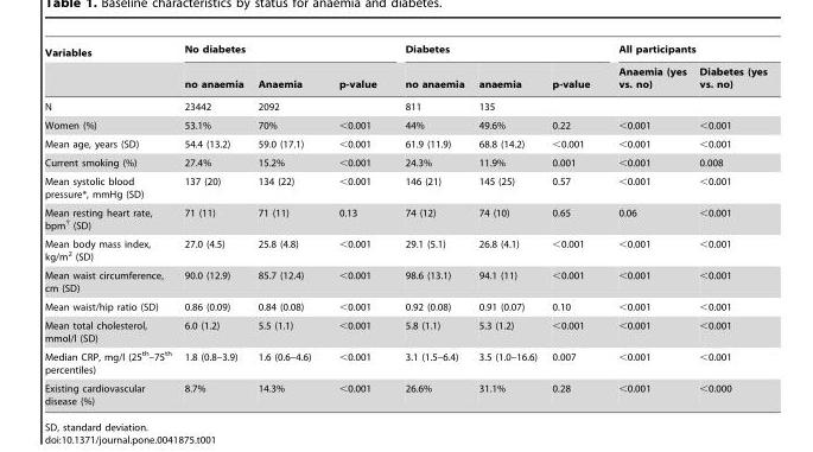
<table><thead><tr><td rowspan="2">Variables</td><td colspan="3">No diabetes</td><td colspan="3">Diabetes</td><td colspan="2">All participants</td></tr><tr><td>no anaemia</td><td>Anaemia</td><td>p-value</td><td>no anaemia</td><td>anaemia</td><td>p-value</td><td>Anaemia (yes vs. no)</td><td>Diabetes (yes vs. no)</td></tr></thead><tbody><tr><td>N</td><td>23442</td><td>2092</td><td></td><td>811</td><td>135</td><td></td><td></td><td></td></tr><tr><td>Women (%)</td><td>53.1%</td><td>70%</td><td>&lt;0.001</td><td>44%</td><td>49.6%</td><td>0.22</td><td>&lt;0.001</td><td>&lt;0.001</td></tr><tr><td>Mean age, years (SD)</td><td>54.4 (13.2)</td><td>59.0 (17.1)</td><td>&lt;0.001</td><td>61.9 (11.9)</td><td>68.8 (14.2)</td><td>&lt;0.001</td><td>&lt;0.001</td><td>&lt;0.001</td></tr><tr><td>Current smoking (%)</td><td>27.4%</td><td>15.2%</td><td>&lt;0.001</td><td>24.3%</td><td>11.9%</td><td>0.001</td><td>&lt;0.001</td><td>0.008</td></tr><tr><td>Mean systolic blood pressure*, mmHg (SD)</td><td>137 (20)</td><td>134 (22)</td><td>&lt;0.001</td><td>146 (21)</td><td>145 (25)</td><td>0.57</td><td>&lt;0.001</td><td>&lt;0.001</td></tr><tr><td>Mean resting heart rate, bpm<sup>†</sup> (SD)</td><td>71 (11)</td><td>71 (11)</td><td>0.13</td><td>74 (12)</td><td>74 (10)</td><td>0.65</td><td>0.06</td><td>&lt;0.001</td></tr><tr><td>Mean body mass index, kg/m<sup>2</sup> (SD)</td><td>27.0 (4.5)</td><td>25.8 (4.8)</td><td>&lt;0.001</td><td>29.1 (5.1)</td><td>26.8 (4.1)</td><td>&lt;0.001</td><td>&lt;0.001</td><td>&lt;0.001</td></tr><tr><td>Mean waist circumference, cm (SD)</td><td>90.0 (12.9)</td><td>85.7 (12.4)</td><td>&lt;0.001</td><td>98.6 (13.1)</td><td>94.1 (11)</td><td>&lt;0.001</td><td>&lt;0.001</td><td>&lt;0.001</td></tr><tr><td>Mean waist/hip ratio (SD)</td><td>0.86 (0.09)</td><td>0.84 (0.08)</td><td>&lt;0.001</td><td>0.92 (0.08)</td><td>0.91 (0.07)</td><td>0.10</td><td>&lt;0.001</td><td>&lt;0.001</td></tr><tr><td>Mean total cholesterol, mmol/l (SD)</td><td>6.0 (1.2)</td><td>5.5 (1.1)</td><td>&lt;0.001</td><td>5.8 (1.1)</td><td>5.3 (1.2)</td><td>&lt;0.001</td><td>&lt;0.001</td><td>&lt;0.001</td></tr><tr><td>Median CRP, mg/l (25<sup>th</sup>–75<sup>th</sup> percentiles)</td><td>1.8 (0.8–3.9)</td><td>1.6 (0.6–4.6)</td><td>&lt;0.001</td><td>3.1 (1.5–6.4)</td><td>3.5 (1.0–16.6)</td><td>0.007</td><td>&lt;0.001</td><td>&lt;0.001</td></tr><tr><td>Existing cardiovascular disease (%)</td><td>8.7%</td><td>14.3%</td><td>&lt;0.001</td><td>26.6%</td><td>31.1%</td><td>0.28</td><td>&lt;0.001</td><td>&lt;0.000</td></tr></tbody></table>